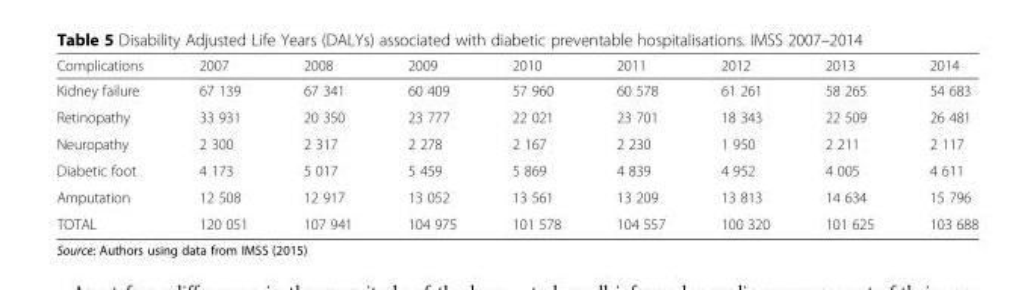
<table><thead><tr><td>Complications</td><td>2007</td><td>2008</td><td>2009</td><td>2010</td><td>2011</td><td>2012</td><td>2013</td><td>2014</td></tr></thead><tbody><tr><td>Kidney failure</td><td>67 139</td><td>67 341</td><td>60 409</td><td>57 960</td><td>60 578</td><td>61 261</td><td>58 265</td><td>54 683</td></tr><tr><td>Retinopathy</td><td>33 931</td><td>20 350</td><td>23 777</td><td>22 021</td><td>23 701</td><td>18 343</td><td>22 509</td><td>26 481</td></tr><tr><td>Neuropathy</td><td>2 300</td><td>2 317</td><td>2 278</td><td>2 167</td><td>2 230</td><td>1 950</td><td>2 211</td><td>2 117</td></tr><tr><td>Diabetic foot</td><td>4 173</td><td>5 017</td><td>5 459</td><td>5 869</td><td>4 839</td><td>4 952</td><td>4 005</td><td>4 611</td></tr><tr><td>Amputation</td><td>12 508</td><td>12 917</td><td>13 052</td><td>13 561</td><td>13 209</td><td>13 813</td><td>14 634</td><td>15 796</td></tr><tr><td>TOTAL</td><td>120 051</td><td>107 941</td><td>104 975</td><td>101 578</td><td>104 557</td><td>100 320</td><td>101 625</td><td>103 688</td></tr></tbody></table>